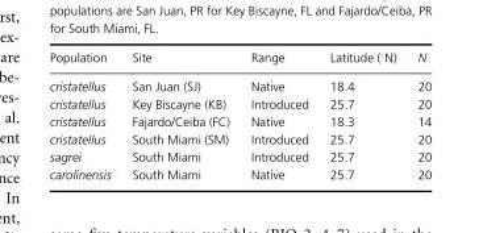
<table><thead><tr><td>Population</td><td>Site</td><td>Range</td><td>Latitude (◦N)</td><td>N</td></tr></thead><tbody><tr><td>cristatellus</td><td>San Juan (SJ)</td><td>Native</td><td>18.4</td><td>20</td></tr><tr><td>cristatellus</td><td>Key Biscayne (KB)</td><td>Introduced</td><td>25.7</td><td>20</td></tr><tr><td>cristatellus</td><td>Fajardo/Ceiba (FC)</td><td>Native</td><td>18.3</td><td>14</td></tr><tr><td>cristatellus</td><td>South Miami (SM)</td><td>Introduced</td><td>25.7</td><td>20</td></tr><tr><td>sagrei</td><td>South Miami</td><td>Introduced</td><td>25.7</td><td>20</td></tr><tr><td>carolinensis</td><td>South Miami</td><td>Native</td><td>25.7</td><td>20</td></tr></tbody></table>